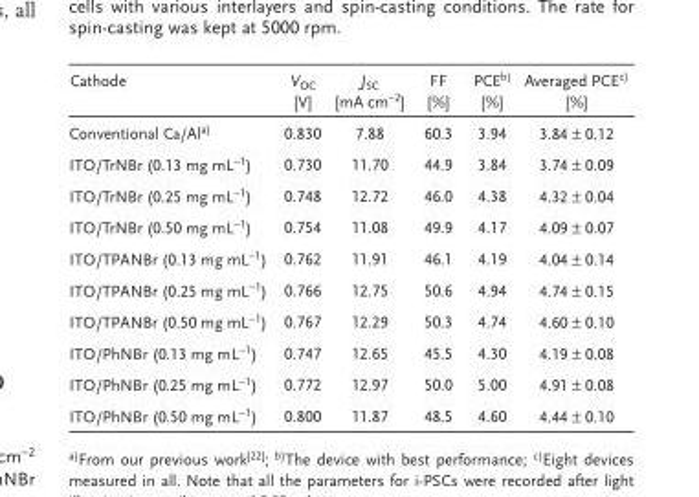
<table><thead><tr><td>Cathode</td><td>V <sub>OC</sub> [V]</td><td>J <sub>SC</sub> [mA cm <sup>−2</sup> ]</td><td>FF [%]</td><td>PCE b) [%]</td><td>Averaged PCE c) [%]</td></tr></thead><tbody><tr><td>Conventional Ca/Al a)</td><td>0.830</td><td>7.88</td><td>60.3</td><td>3.94</td><td>3.84 ± 0.12</td></tr><tr><td>ITO/TrNBr (0.13 mg mL <sup>−1</sup> )</td><td>0.730</td><td>11.70</td><td>44.9</td><td>3.84</td><td>3.74 ± 0.09</td></tr><tr><td>ITO/TrNBr (0.25 mg mL <sup>−1</sup> )</td><td>0.748</td><td>12.72</td><td>46.0</td><td>4.38</td><td>4.32 ± 0.04</td></tr><tr><td>ITO/TrNBr (0.50 mg mL <sup>−1</sup> )</td><td>0.754</td><td>11.08</td><td>49.9</td><td>4.17</td><td>4.09 ± 0.07</td></tr><tr><td>ITO/TPANBr (0.13 mg mL <sup>−1</sup> )</td><td>0.762</td><td>11.91</td><td>46.1</td><td>4.19</td><td>4.04 ± 0.14</td></tr><tr><td>ITO/TPANBr (0.25 mg mL <sup>−1</sup> )</td><td>0.766</td><td>12.75</td><td>50.6</td><td>4.94</td><td>4.74 ± 0.15</td></tr><tr><td>ITO/TPANBr (0.50 mg mL <sup>−1</sup> )</td><td>0.767</td><td>12.29</td><td>50.3</td><td>4.74</td><td>4.60 ± 0.10</td></tr><tr><td>ITO/PhNBr (0.13 mg mL <sup>−1</sup> )</td><td>0.747</td><td>12.65</td><td>45.5</td><td>4.30</td><td>4.19 ± 0.08</td></tr><tr><td>ITO/PhNBr (0.25 mg mL <sup>−1</sup> )</td><td>0.772</td><td>12.97</td><td>50.0</td><td>5.00</td><td>4.91 ± 0.08</td></tr><tr><td>ITO/PhNBr (0.50 mg mL <sup>−1</sup> )</td><td>0.800</td><td>11.87</td><td>48.5</td><td>4.60</td><td>4.44 ± 0.10</td></tr></tbody></table>